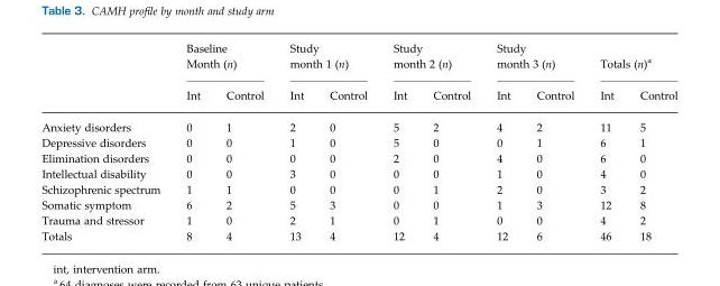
<table><thead><tr><td rowspan="2"></td><td colspan="2">Baseline Month (n)</td><td colspan="2">Study month 1 (n)</td><td colspan="2">Study month 2 (n)</td><td colspan="2">Study month 3 (n)</td><td colspan="2">Totals (n)<sup>a</sup></td></tr><tr><td>Int</td><td>Control</td><td>Int</td><td>Control</td><td>Int</td><td>Control</td><td>Int</td><td>Control</td><td>Int</td><td>Control</td></tr></thead><tbody><tr><td>Anxiety disorders</td><td>0</td><td>1</td><td>2</td><td>0</td><td>5</td><td>2</td><td>4</td><td>2</td><td>11</td><td>5</td></tr><tr><td>Depressive disorders</td><td>0</td><td>0</td><td>1</td><td>0</td><td>5</td><td>0</td><td>0</td><td>1</td><td>6</td><td>1</td></tr><tr><td>Elimination disorders</td><td>0</td><td>0</td><td>0</td><td>0</td><td>2</td><td>0</td><td>4</td><td>0</td><td>6</td><td>0</td></tr><tr><td>Intellectual disability</td><td>0</td><td>0</td><td>3</td><td>0</td><td>0</td><td>0</td><td>1</td><td>0</td><td>4</td><td>0</td></tr><tr><td>Schizophrenic spectrum</td><td>1</td><td>1</td><td>0</td><td>0</td><td>0</td><td>1</td><td>2</td><td>0</td><td>3</td><td>2</td></tr><tr><td>Somatic symptom</td><td>6</td><td>2</td><td>5</td><td>3</td><td>0</td><td>0</td><td>1</td><td>3</td><td>12</td><td>8</td></tr><tr><td>Trauma and stressor</td><td>1</td><td>0</td><td>2</td><td>1</td><td>0</td><td>1</td><td>0</td><td>0</td><td>4</td><td>2</td></tr><tr><td>Totals</td><td>8</td><td>4</td><td>13</td><td>4</td><td>12</td><td>4</td><td>12</td><td>6</td><td>46</td><td>18</td></tr></tbody></table>